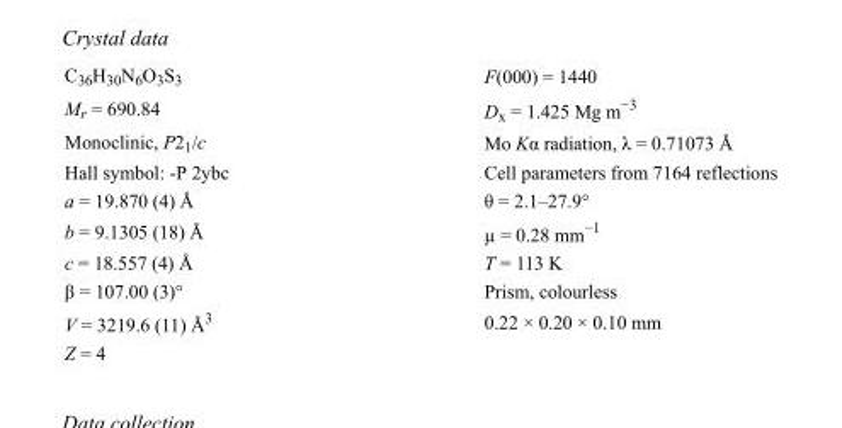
<table><tbody><tr><td>C<sub>36</sub>H<sub>30</sub>N<sub>6</sub>O<sub>3</sub>S<sub>3</sub></td><td>F(000) = 1440</td></tr><tr><td>M<sub>r</sub> = 690.84</td><td>D<sub>x</sub> = 1.425 Mg m<sup>−3</sup></td></tr><tr><td>Monoclinic, P2<sub>1</sub>/c</td><td>Mo Kα radiation, λ = 0.71073 Å</td></tr><tr><td>Hall symbol: -P 2ybc</td><td>Cell parameters from 7164 reflections</td></tr><tr><td>a = 19.870 (4) Å</td><td>θ = 2.1–27.9°</td></tr><tr><td>b = 9.1305 (18) Å</td><td>µ = 0.28 mm<sup>−1</sup></td></tr><tr><td>c = 18.557 (4) Å</td><td>T = 113 K</td></tr><tr><td>β = 107.00 (3)°</td><td>Prism, colourless</td></tr><tr><td>V = 3219.6 (11) Å<sup>3</sup></td><td>0.22 × 0.20 × 0.10 mm</td></tr><tr><td>Z = 4</td><td></td></tr></tbody></table>